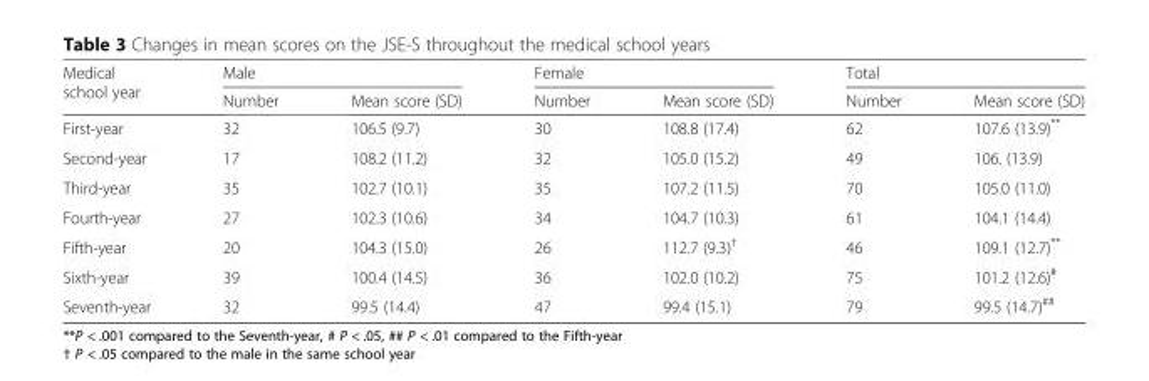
<table><thead><tr><td rowspan="2">Medical school year</td><td colspan="2">Male</td><td colspan="2">Female</td><td colspan="2">Total</td></tr><tr><td>Number</td><td>Mean score (SD)</td><td>Number</td><td>Mean score (SD)</td><td>Number</td><td>Mean score (SD)</td></tr></thead><tbody><tr><td>First-year</td><td>32</td><td>106.5 (9.7)</td><td>30</td><td>108.8 (17.4)</td><td>62</td><td>107.6 (13.9)**</td></tr><tr><td>Second-year</td><td>17</td><td>108.2 (11.2)</td><td>32</td><td>105.0 (15.2)</td><td>49</td><td>106. (13.9)</td></tr><tr><td>Third-year</td><td>35</td><td>102.7 (10.1)</td><td>35</td><td>107.2 (11.5)</td><td>70</td><td>105.0 (11.0)</td></tr><tr><td>Fourth-year</td><td>27</td><td>102.3 (10.6)</td><td>34</td><td>104.7 (10.3)</td><td>61</td><td>104.1 (14.4)</td></tr><tr><td>Fifth-year</td><td>20</td><td>104.3 (15.0)</td><td>26</td><td>112.7 (9.3)<sup>†</sup></td><td>46</td><td>109.1 (12.7)**</td></tr><tr><td>Sixth-year</td><td>39</td><td>100.4 (14.5)</td><td>36</td><td>102.0 (10.2)</td><td>75</td><td>101.2 (12.6)<sup>#</sup></td></tr><tr><td>Seventh-year</td><td>32</td><td>99.5 (14.4)</td><td>47</td><td>99.4 (15.1)</td><td>79</td><td>99.5 (14.7)<sup>##</sup></td></tr></tbody></table>